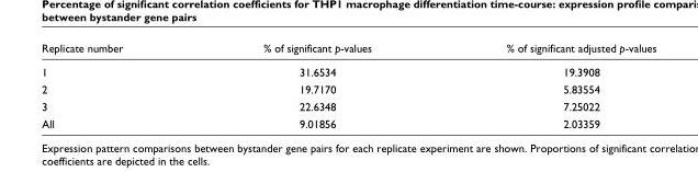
<table><thead><tr><td>Replicate number</td><td>% of significant p-values</td><td>% of significant adjusted p-values</td></tr></thead><tbody><tr><td>1</td><td>31.6534</td><td>19.3908</td></tr><tr><td>2</td><td>19.7170</td><td>5.83554</td></tr><tr><td>3</td><td>22.6348</td><td>7.25022</td></tr><tr><td>All</td><td>9.01856</td><td>2.03359</td></tr></tbody></table>